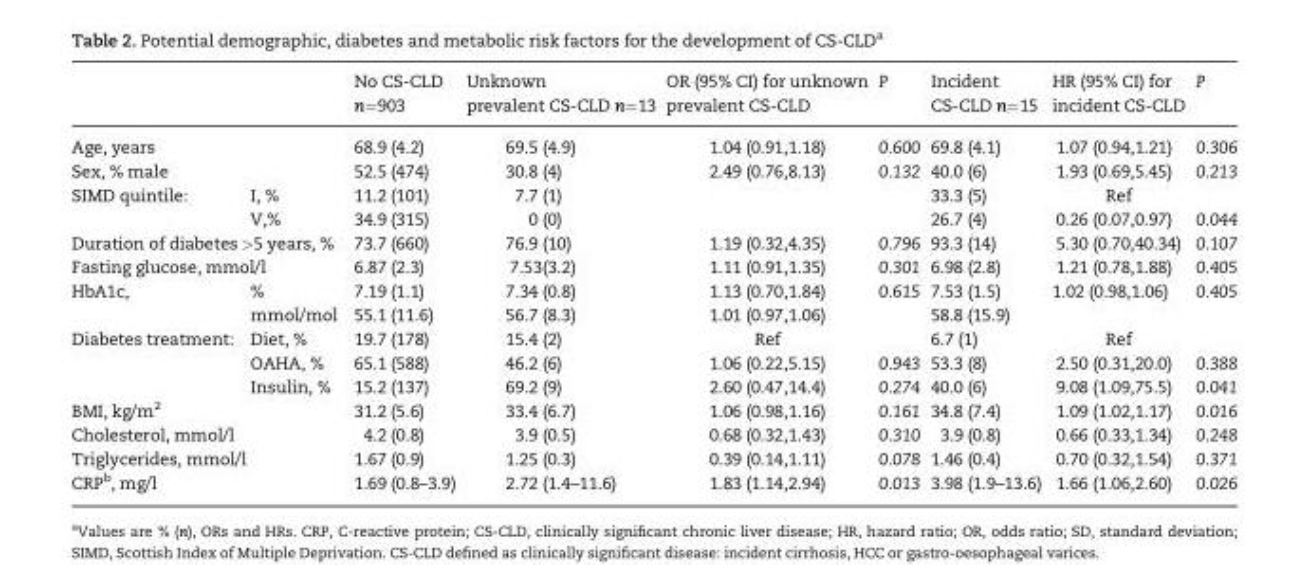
<table><thead><tr><td></td><td></td><td>No CS-CLD n=903</td><td>Unknown prevalent CS-CLD n=13</td><td>OR (95% CI) for unknown prevalent CS-CLD</td><td>P</td><td>Incident CS-CLD n=15</td><td>HR (95% CI) for incident CS-CLD</td><td>P</td></tr></thead><tbody><tr><td colspan="2">Age, years</td><td>68.9 (4.2)</td><td>69.5 (4.9)</td><td>1.04 (0.91,1.18)</td><td>0.600</td><td>69.8 (4.1)</td><td>1.07 (0.94,1.21)</td><td>0.306</td></tr><tr><td colspan="2">Sex, % male</td><td>52.5 (474)</td><td>30.8 (4)</td><td>2.49 (0.76,8.13)</td><td>0.132</td><td>40.0 (6)</td><td>1.93 (0.69,5.45)</td><td>0.213</td></tr><tr><td rowspan="2">SIMD quintile:</td><td>I, %</td><td>11.2 (101)</td><td>7.7 (1)</td><td></td><td></td><td>33.3 (5)</td><td>Ref</td><td></td></tr><tr><td>V,%</td><td>34.9 (315)</td><td>0 (0)</td><td></td><td></td><td>26.7 (4)</td><td>0.26 (0.07,0.97)</td><td>0.044</td></tr><tr><td colspan="2">Duration of diabetes &gt;5 years, %</td><td>73.7 (660)</td><td>76.9 (10)</td><td>1.19 (0.32,4.35)</td><td>0.796</td><td>93.3 (14)</td><td>5.30 (0.70,40.34)</td><td>0.107</td></tr><tr><td colspan="2">Fasting glucose, mmol/l</td><td>6.87 (2.3)</td><td>7.53(3.2)</td><td>1.11 (0.91,1.35)</td><td>0.301</td><td>6.98 (2.8)</td><td>1.21 (0.78,1.88)</td><td>0.405</td></tr><tr><td rowspan="2">HbA1c,</td><td>%</td><td>7.19 (1.1)</td><td>7.34 (0.8)</td><td>1.13 (0.70,1.84)</td><td rowspan="2">0.615</td><td>7.53 (1.5)</td><td rowspan="2">1.02 (0.98,1.06)</td><td rowspan="2">0.405</td></tr><tr><td>mmol/mol</td><td>55.1 (11.6)</td><td>56.7 (8.3)</td><td>1.01 (0.97,1.06)</td><td>58.8 (15.9)</td></tr><tr><td rowspan="3">Diabetes treatment:</td><td>Diet, %</td><td>19.7 (178)</td><td>15.4 (2)</td><td>Ref</td><td></td><td>6.7 (1)</td><td>Ref</td><td></td></tr><tr><td>OAHA, %</td><td>65.1 (588)</td><td>46.2 (6)</td><td>1.06 (0.22,5.15)</td><td>0.943</td><td>53.3 (8)</td><td>2.50 (0.31,20.0)</td><td>0.388</td></tr><tr><td>Insulin, %</td><td>15.2 (137)</td><td>69.2 (9)</td><td>2.60 (0.47,14.4)</td><td>0.274</td><td>40.0 (6)</td><td>9.08 (1.09,75.5)</td><td>0.041</td></tr><tr><td colspan="2">BMI, kg/m<sup>2</sup></td><td>31.2 (5.6)</td><td>33.4 (6.7)</td><td>1.06 (0.98,1.16)</td><td>0.161</td><td>34.8 (7.4)</td><td>1.09 (1.02,1.17)</td><td>0.016</td></tr><tr><td colspan="2">Cholesterol, mmol/l</td><td>4.2 (0.8)</td><td>3.9 (0.5)</td><td>0.68 (0.32,1.43)</td><td>0.310</td><td>3.9 (0.8)</td><td>0.66 (0.33,1.34)</td><td>0.248</td></tr><tr><td colspan="2">Triglycerides, mmol/l</td><td>1.67 (0.9)</td><td>1.25 (0.3)</td><td>0.39 (0.14,1.11)</td><td>0.078</td><td>1.46 (0.4)</td><td>0.70 (0.32,1.54)</td><td>0.371</td></tr><tr><td colspan="2">CRP<sup>b</sup>, mg/l</td><td>1.69 (0.8–3.9)</td><td>2.72 (1.4–11.6)</td><td>1.83 (1.14,2.94)</td><td>0.013</td><td>3.98 (1.9–13.6)</td><td>1.66 (1.06,2.60)</td><td>0.026</td></tr></tbody></table>